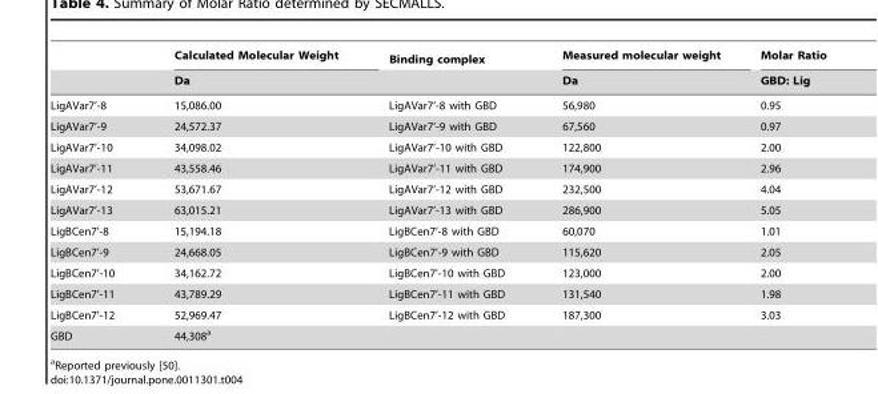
<table><thead><tr><td rowspan="2"></td><td rowspan="2">Calculated Molecular Weight Da</td><td rowspan="2">Binding complex</td><td rowspan="2">Measured molecular weight Da</td><td rowspan="2">Molar Ratio GBD: Lig</td></tr><tr></tr></thead><tbody><tr><td>LigAVar7’-8</td><td>15,086.00</td><td>LigAVar7’-8 with GBD</td><td>56,980</td><td>0.95</td></tr><tr><td>LigAVar7’-9</td><td>24,572.37</td><td>LigAVar7’-9 with GBD</td><td>67,560</td><td>0.97</td></tr><tr><td>LigAVar7’-10</td><td>34,098.02</td><td>LigAVar7’-10 with GBD</td><td>122,800</td><td>2.00</td></tr><tr><td>LigAVar7’-11</td><td>43,558.46</td><td>LigAVar7’-11 with GBD</td><td>174,900</td><td>2.96</td></tr><tr><td>LigAVar7’-12</td><td>53,671.67</td><td>LigAVar7’-12 with GBD</td><td>232,500</td><td>4.04</td></tr><tr><td>LigAVar7’-13</td><td>63,015.21</td><td>LigAVar7’-13 with GBD</td><td>286,900</td><td>5.05</td></tr><tr><td>LigBCen7’-8</td><td>15,194.18</td><td>LigBCen7’-8 with GBD</td><td>60,070</td><td>1.01</td></tr><tr><td>LigBCen7’-9</td><td>24,668.05</td><td>LigBCen7’-9 with GBD</td><td>115,620</td><td>2.05</td></tr><tr><td>LigBCen7’-10</td><td>34,162.72</td><td>LigBCen7’-10 with GBD</td><td>123,000</td><td>2.00</td></tr><tr><td>LigBCen7’-11</td><td>43,789.29</td><td>LigBCen7’-11 with GBD</td><td>131,540</td><td>1.98</td></tr><tr><td>LigBCen7’-12</td><td>52,969.47</td><td>LigBCen7’-12 with GBD</td><td>187,300</td><td>3.03</td></tr><tr><td>GBD</td><td>44,308<sup>a</sup></td><td></td><td></td><td></td></tr></tbody></table>